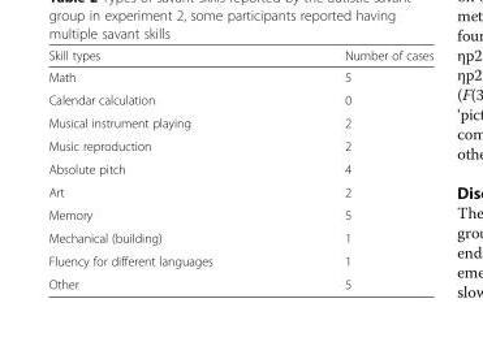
<table><thead><tr><td>Skill types</td><td>Number of cases</td></tr></thead><tbody><tr><td>Math</td><td>5</td></tr><tr><td>Calendar calculation</td><td>0</td></tr><tr><td>Musical instrument playing</td><td>2</td></tr><tr><td>Music reproduction</td><td>2</td></tr><tr><td>Absolute pitch</td><td>4</td></tr><tr><td>Art</td><td>2</td></tr><tr><td>Memory</td><td>5</td></tr><tr><td>Mechanical (building)</td><td>1</td></tr><tr><td>Fluency for different languages</td><td>1</td></tr><tr><td>Other</td><td>5</td></tr></tbody></table>